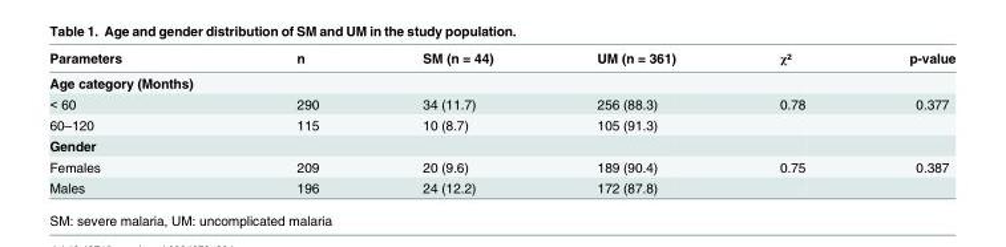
<table><thead><tr><td>Parameters</td><td>n</td><td>SM (n = 44)</td><td>UM (n = 361)</td><td>χ²</td><td>p-value</td></tr></thead><tbody><tr><td colspan="6">Age category (Months)</td></tr><tr><td>&lt; 60</td><td>290</td><td>34 (11.7)</td><td>256 (88.3)</td><td>0.78</td><td>0.377</td></tr><tr><td>60–120</td><td>115</td><td>10 (8.7)</td><td>105 (91.3)</td><td></td><td></td></tr><tr><td colspan="6">Gender</td></tr><tr><td>Females</td><td>209</td><td>20 (9.6)</td><td>189 (90.4)</td><td>0.75</td><td>0.387</td></tr><tr><td>Males</td><td>196</td><td>24 (12.2)</td><td>172 (87.8)</td><td></td><td></td></tr></tbody></table>